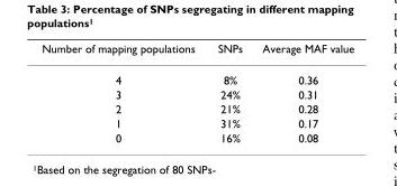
<table><thead><tr><td>Number of mapping populations</td><td>SNPs</td><td>Average MAF value</td></tr></thead><tbody><tr><td>4</td><td>8%</td><td>0.36</td></tr><tr><td>3</td><td>24%</td><td>0.31</td></tr><tr><td>2</td><td>21%</td><td>0.28</td></tr><tr><td>1</td><td>31%</td><td>0.17</td></tr><tr><td>0</td><td>16%</td><td>0.08</td></tr></tbody></table>